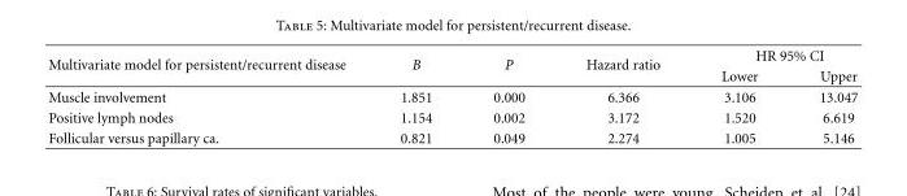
<table><thead><tr><td rowspan="2">Multivariate model for persistent/recurrent disease</td><td rowspan="2">B</td><td rowspan="2">P</td><td rowspan="2">Hazard ratio</td><td colspan="2">HR 95% CI</td></tr><tr><td>Lower</td><td>Upper</td></tr></thead><tbody><tr><td>Muscle involvement</td><td>1.851</td><td>0.000</td><td>6.366</td><td>3.106</td><td>13.047</td></tr><tr><td>Positive lymph nodes</td><td>1.154</td><td>0.002</td><td>3.172</td><td>1.520</td><td>6.619</td></tr><tr><td>Follicular versus papillary ca.</td><td>0.821</td><td>0.049</td><td>2.274</td><td>1.005</td><td>5.146</td></tr></tbody></table>